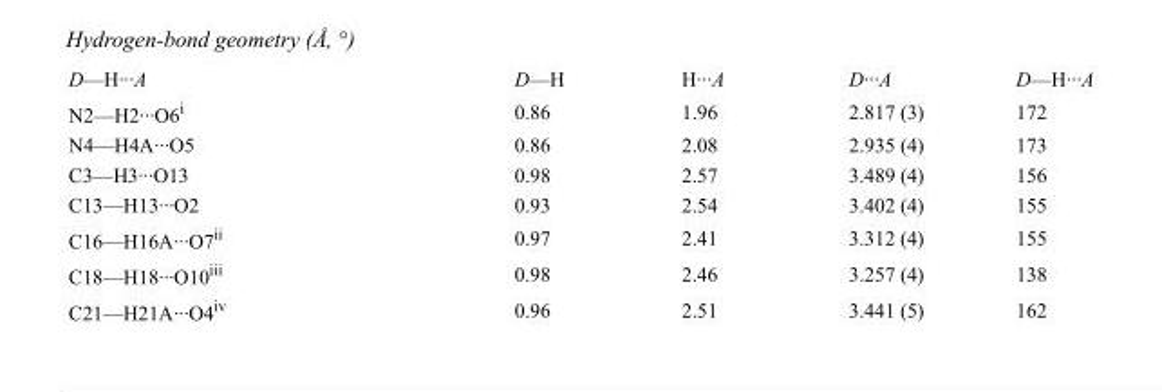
<table><tbody><tr><td>D—H···A</td><td>D—H</td><td>H···A</td><td>D···A</td><td>D—H···A</td></tr><tr><td>N2—H2···O6<sup>i</sup></td><td>0.86</td><td>1.96</td><td>2.817 (3)</td><td>172</td></tr><tr><td>N4—H4A···O5</td><td>0.86</td><td>2.08</td><td>2.935 (4)</td><td>173</td></tr><tr><td>C3—H3···O13</td><td>0.98</td><td>2.57</td><td>3.489 (4)</td><td>156</td></tr><tr><td>C13—H13···O2</td><td>0.93</td><td>2.54</td><td>3.402 (4)</td><td>155</td></tr><tr><td>C16—H16A···O7<sup>ii</sup></td><td>0.97</td><td>2.41</td><td>3.312 (4)</td><td>155</td></tr><tr><td>C18—H18···O10<sup>iii</sup></td><td>0.98</td><td>2.46</td><td>3.257 (4)</td><td>138</td></tr><tr><td>C21—H21A···O4<sup>iv</sup></td><td>0.96</td><td>2.51</td><td>3.441 (5)</td><td>162</td></tr></tbody></table>